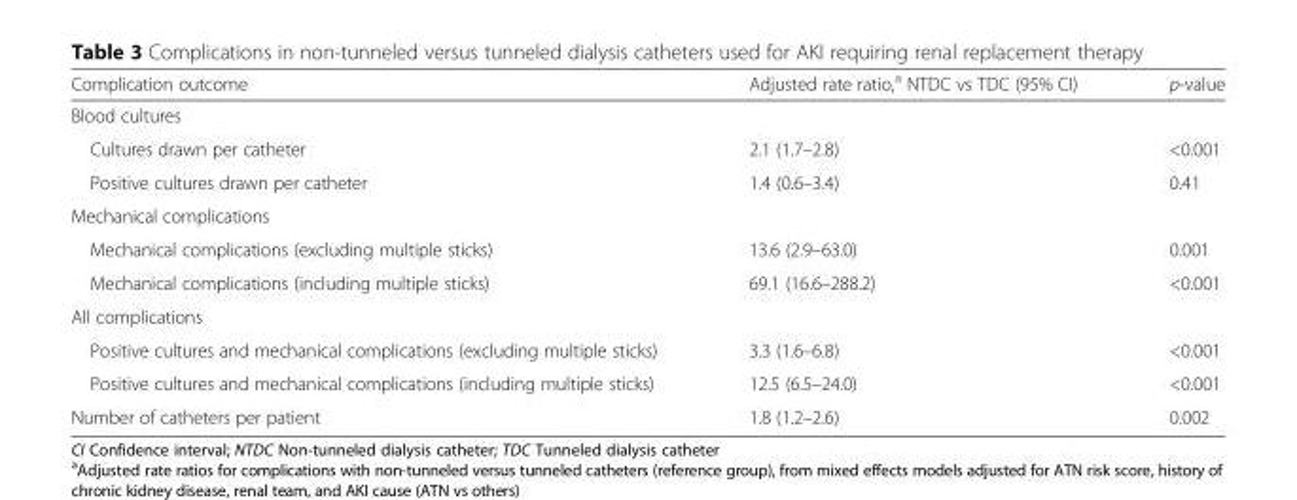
<table><thead><tr><td>Complication outcome</td><td>Adjusted rate ratio,<sup>a</sup> NTDC vs TDC (95% CI)</td><td>p-value</td></tr></thead><tbody><tr><td colspan="3">Blood cultures</td></tr><tr><td>Cultures drawn per catheter</td><td>2.1 (1.7–2.8)</td><td>&lt;0.001</td></tr><tr><td>Positive cultures drawn per catheter</td><td>1.4 (0.6–3.4)</td><td>0.41</td></tr><tr><td colspan="3">Mechanical complications</td></tr><tr><td>Mechanical complications (excluding multiple sticks)</td><td>13.6 (2.9–63.0)</td><td>0.001</td></tr><tr><td>Mechanical complications (including multiple sticks)</td><td>69.1 (16.6–288.2)</td><td>&lt;0.001</td></tr><tr><td colspan="3">All complications</td></tr><tr><td>Positive cultures and mechanical complications (excluding multiple sticks)</td><td>3.3 (1.6–6.8)</td><td>&lt;0.001</td></tr><tr><td>Positive cultures and mechanical complications (including multiple sticks)</td><td>12.5 (6.5–24.0)</td><td>&lt;0.001</td></tr><tr><td>Number of catheters per patient</td><td>1.8 (1.2–2.6)</td><td>0.002</td></tr></tbody></table>